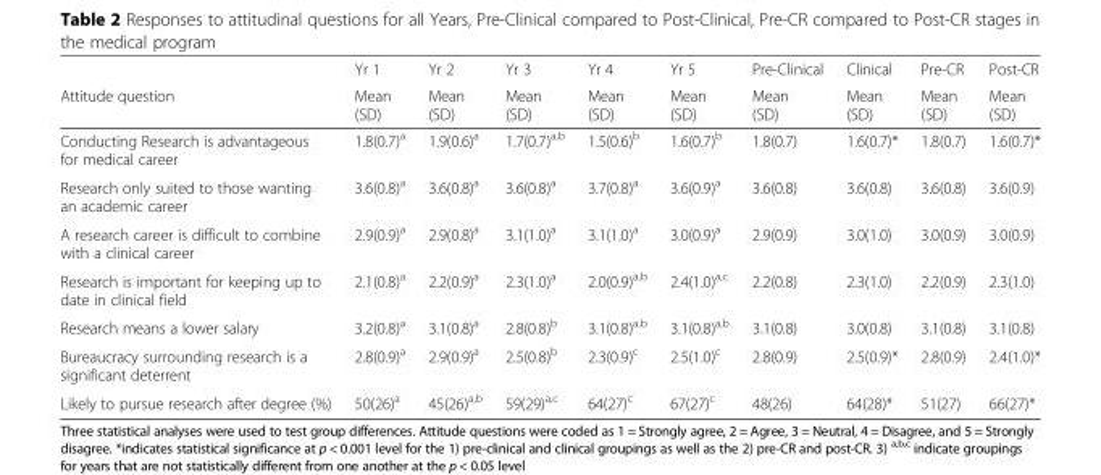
<table><thead><tr><td rowspan="2">Attitude question</td><td rowspan="2">Yr 1 Mean (SD)</td><td rowspan="2">Yr 2 Mean (SD)</td><td rowspan="2">Yr 3 Mean (SD)</td><td rowspan="2">Yr 4 Mean (SD)</td><td rowspan="2">Yr 5 Mean (SD)</td><td rowspan="2">Pre-Clinical Mean (SD)</td><td rowspan="2">Clinical Mean (SD)</td><td rowspan="2">Pre-CR Mean (SD)</td><td rowspan="2">Post-CR Mean (SD)</td></tr><tr></tr></thead><tbody><tr><td>Conducting Research is advantageous for medical career</td><td>1.8(0.7)<sup>a</sup></td><td>1.9(0.6)<sup>a</sup></td><td>1.7(0.7)<sup>a,b</sup></td><td>1.5(0.6)<sup>b</sup></td><td>1.6(0.7)<sup>b</sup></td><td>1.8(0.7)</td><td>1.6(0.7)*</td><td>1.8(0.7)</td><td>1.6(0.7)*</td></tr><tr><td>Research only suited to those wanting an academic career</td><td>3.6(0.8)<sup>a</sup></td><td>3.6(0.8)<sup>a</sup></td><td>3.6(0.8)<sup>a</sup></td><td>3.7(0.8)<sup>a</sup></td><td>3.6(0.9)<sup>a</sup></td><td>3.6(0.8)</td><td>3.6(0.8)</td><td>3.6(0.8)</td><td>3.6(0.9)</td></tr><tr><td>A research career is difficult to combine with a clinical career</td><td>2.9(0.9)<sup>a</sup></td><td>2.9(0.8)<sup>a</sup></td><td>3.1(1.0)<sup>a</sup></td><td>3.1(1.0)<sup>a</sup></td><td>3.0(0.9)<sup>a</sup></td><td>2.9(0.9)</td><td>3.0(1.0)</td><td>3.0(0.9)</td><td>3.0(0.9)</td></tr><tr><td>Research is important for keeping up to date in clinical field</td><td>2.1(0.8)<sup>a</sup></td><td>2.2(0.9)<sup>a</sup></td><td>2.3(1.0)<sup>a</sup></td><td>2.0(0.9)<sup>a,b</sup></td><td>2.4(1.0)<sup>a,c</sup></td><td>2.2(0.8)</td><td>2.3(1.0)</td><td>2.2(0.9)</td><td>2.3(1.0)</td></tr><tr><td>Research means a lower salary</td><td>3.2(0.8)<sup>a</sup></td><td>3.1(0.8)<sup>a</sup></td><td>2.8(0.8)<sup>b</sup></td><td>3.1(0.8)<sup>a,b</sup></td><td>3.1(0.8)<sup>a,b</sup></td><td>3.1(0.8)</td><td>3.0(0.8)</td><td>3.1(0.8)</td><td>3.1(0.8)</td></tr><tr><td>Bureaucracy surrounding research is a significant deterrent</td><td>2.8(0.9)<sup>a</sup></td><td>2.9(0.9)<sup>a</sup></td><td>2.5(0.8)<sup>b</sup></td><td>2.3(0.9)<sup>c</sup></td><td>2.5(1.0)<sup>c</sup></td><td>2.8(0.9)</td><td>2.5(0.9)*</td><td>2.8(0.9)</td><td>2.4(1.0)*</td></tr><tr><td>Likely to pursue research after degree (%)</td><td>50(26)<sup>a</sup></td><td>45(26)<sup>a,b</sup></td><td>59(29)<sup>a,c</sup></td><td>64(27)<sup>c</sup></td><td>67(27)<sup>c</sup></td><td>48(26)</td><td>64(28)*</td><td>51(27)</td><td>66(27)*</td></tr></tbody></table>